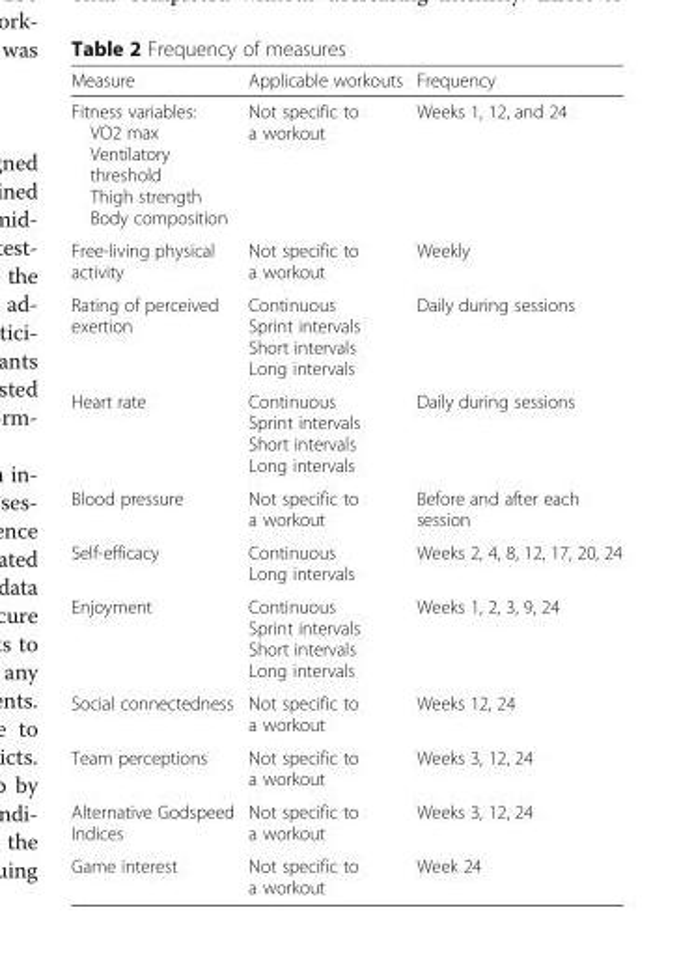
<table><thead><tr><td>Measure</td><td>Applicable workouts</td><td>Frequency</td></tr></thead><tbody><tr><td>Fitness variables: VO2 max Ventilatory threshold Thigh strength Body composition</td><td>Not specific to a workout</td><td>Weeks 1, 12, and 24</td></tr><tr><td>Free-living physical activity</td><td>Not specific to a workout</td><td>Weekly</td></tr><tr><td>Rating of perceived exertion</td><td>Continuous Sprint intervals Short intervals Long intervals</td><td>Daily during sessions</td></tr><tr><td>Heart rate</td><td>Continuous Sprint intervals Short intervals Long intervals</td><td>Daily during sessions</td></tr><tr><td>Blood pressure</td><td>Not specific to a workout</td><td>Before and after each session</td></tr><tr><td>Self-efficacy</td><td>Continuous Long intervals</td><td>Weeks 2, 4, 8, 12, 17, 20, 24</td></tr><tr><td>Enjoyment</td><td>Continuous Sprint intervals Short intervals Long intervals</td><td>Weeks 1, 2, 3, 9, 24</td></tr><tr><td>Social connectedness</td><td>Not specific to a workout</td><td>Weeks 12, 24</td></tr><tr><td>Team perceptions</td><td>Not specific to a workout</td><td>Weeks 3, 12, 24</td></tr><tr><td>Alternative Godspeed Indices</td><td>Not specific to a workout</td><td>Weeks 3, 12, 24</td></tr><tr><td>Game interest</td><td>Not specific to a workout</td><td>Week 24</td></tr></tbody></table>